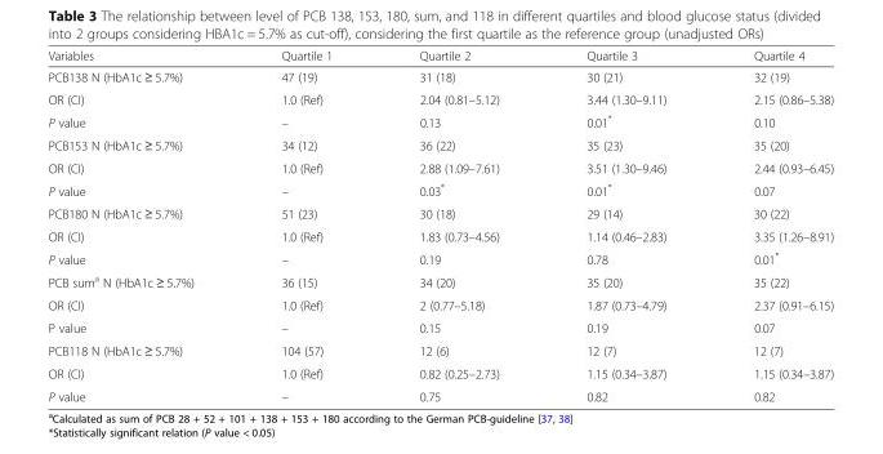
<table><thead><tr><td>Variables</td><td>Quartile 1</td><td>Quartile 2</td><td>Quartile 3</td><td>Quartile 4</td></tr></thead><tbody><tr><td>PCB138 N (HbA1c ≥ 5.7%)</td><td>47 (19)</td><td>31 (18)</td><td>30 (21)</td><td>32 (19)</td></tr><tr><td>OR (CI)</td><td>1.0 (Ref)</td><td>2.04 (0.81–5.12)</td><td>3.44 (1.30–9.11)</td><td>2.15 (0.86–5.38)</td></tr><tr><td>P value</td><td>–</td><td>0.13</td><td>0.01*</td><td>0.10</td></tr><tr><td>PCB153 N (HbA1c ≥ 5.7%)</td><td>34 (12)</td><td>36 (22)</td><td>35 (23)</td><td>35 (20)</td></tr><tr><td>OR (CI)</td><td>1.0 (Ref)</td><td>2.88 (1.09–7.61)</td><td>3.51 (1.30–9.46)</td><td>2.44 (0.93–6.45)</td></tr><tr><td>P value</td><td>–</td><td>0.03*</td><td>0.01*</td><td>0.07</td></tr><tr><td>PCB180 N (HbA1c ≥ 5.7%)</td><td>51 (23)</td><td>30 (18)</td><td>29 (14)</td><td>30 (22)</td></tr><tr><td>OR (CI)</td><td>1.0 (Ref)</td><td>1.83 (0.73–4.56)</td><td>1.14 (0.46–2.83)</td><td>3.35 (1.26–8.91)</td></tr><tr><td>P value</td><td>–</td><td>0.19</td><td>0.78</td><td>0.01*</td></tr><tr><td>PCB sum<sup>a</sup> N (HbA1c ≥ 5.7%)</td><td>36 (15)</td><td>34 (20)</td><td>35 (20)</td><td>35 (22)</td></tr><tr><td>OR (CI)</td><td>1.0 (Ref)</td><td>2 (0.77–5.18)</td><td>1.87 (0.73–4.79)</td><td>2.37 (0.91–6.15)</td></tr><tr><td>P value</td><td>–</td><td>0.15</td><td>0.19</td><td>0.07</td></tr><tr><td>PCB118 N (HbA1c ≥ 5.7%)</td><td>104 (57)</td><td>12 (6)</td><td>12 (7)</td><td>12 (7)</td></tr><tr><td>OR (CI)</td><td>1.0 (Ref)</td><td>0.82 (0.25–2.73)</td><td>1.15 (0.34–3.87)</td><td>1.15 (0.34–3.87)</td></tr><tr><td>P value</td><td>–</td><td>0.75</td><td>0.82</td><td>0.82</td></tr></tbody></table>